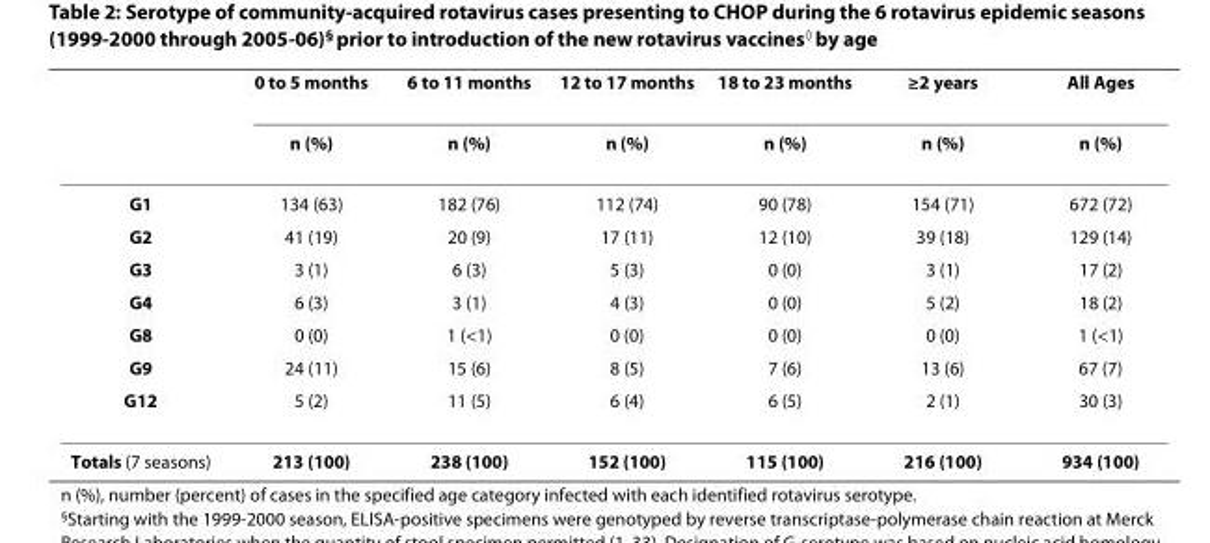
<table><thead><tr><td rowspan="2"></td><td rowspan="2">0 to 5 months n (%)</td><td rowspan="2">6 to 11 months n (%)</td><td rowspan="2">12 to 17 months n (%)</td><td rowspan="2">18 to 23 months n (%)</td><td rowspan="2">≥2 years n (%)</td><td rowspan="2">All Ages n (%)</td></tr><tr></tr></thead><tbody><tr><td>G1</td><td>134 (63)</td><td>182 (76)</td><td>112 (74)</td><td>90 (78)</td><td>154 (71)</td><td>672 (72)</td></tr><tr><td>G2</td><td>41 (19)</td><td>20 (9)</td><td>17 (11)</td><td>12 (10)</td><td>39 (18)</td><td>129 (14)</td></tr><tr><td>G3</td><td>3 (1)</td><td>6 (3)</td><td>5 (3)</td><td>0 (0)</td><td>3 (1)</td><td>17 (2)</td></tr><tr><td>G4</td><td>6 (3)</td><td>3 (1)</td><td>4 (3)</td><td>0 (0)</td><td>5 (2)</td><td>18 (2)</td></tr><tr><td>G8</td><td>0 (0)</td><td>1 (&lt;1)</td><td>0 (0)</td><td>0 (0)</td><td>0 (0)</td><td>1 (&lt;1)</td></tr><tr><td>G9</td><td>24 (11)</td><td>15 (6)</td><td>8 (5)</td><td>7 (6)</td><td>13 (6)</td><td>67 (7)</td></tr><tr><td>G12</td><td>5 (2)</td><td>11 (5)</td><td>6 (4)</td><td>6 (5)</td><td>2 (1)</td><td>30 (3)</td></tr><tr><td>Totals (7 seasons)</td><td>213 (100)</td><td>238 (100)</td><td>152 (100)</td><td>115 (100)</td><td>216 (100)</td><td>934 (100)</td></tr></tbody></table>